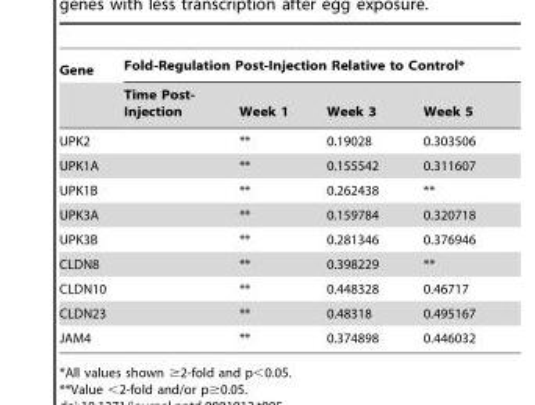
<table><thead><tr><td rowspan="2">Gene</td><td colspan="4">Fold-Regulation Post-Injection Relative to Control*</td></tr><tr><td>Time Post- Injection</td><td>Week 1</td><td>Week 3</td><td>Week 5</td></tr></thead><tbody><tr><td>UPK2</td><td></td><td>**</td><td>0.19028</td><td>0.303506</td></tr><tr><td colspan="2">UPK1A</td><td>**</td><td>0.155542</td><td>0.311607</td></tr><tr><td colspan="2">UPK1B</td><td>**</td><td>0.262438</td><td>**</td></tr><tr><td colspan="2">UPK3A</td><td>**</td><td>0.159784</td><td>0.320718</td></tr><tr><td colspan="2">UPK3B</td><td>**</td><td>0.281346</td><td>0.376946</td></tr><tr><td colspan="2">CLDN8</td><td>**</td><td>0.398229</td><td>**</td></tr><tr><td colspan="2">CLDN10</td><td>**</td><td>0.448328</td><td>0.46717</td></tr><tr><td colspan="2">CLDN23</td><td>**</td><td>0.48318</td><td>0.495167</td></tr><tr><td>JAM4</td><td></td><td>**</td><td>0.374898</td><td>0.446032</td></tr></tbody></table>